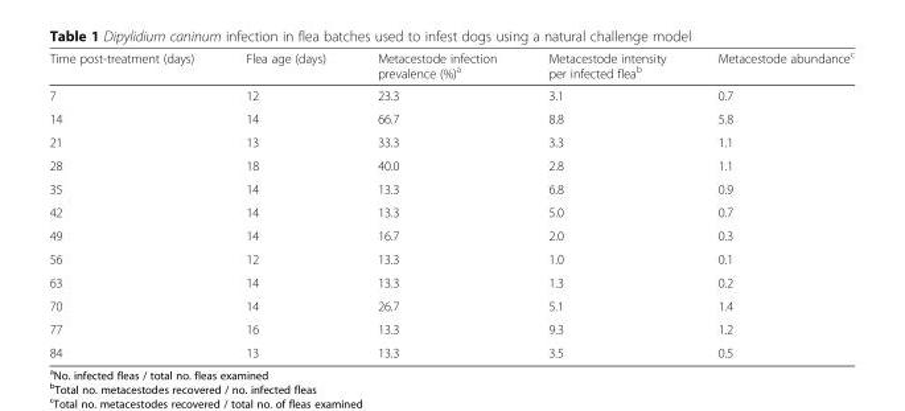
<table><thead><tr><td>Time post-treatment (days)</td><td>Flea age (days)</td><td>Metacestode infection prevalence (%)<sup>a</sup></td><td>Metacestode intensity per infected flea<sup>b</sup></td><td>Metacestode abundance<sup>c</sup></td></tr></thead><tbody><tr><td>7</td><td>12</td><td>23.3</td><td>3.1</td><td>0.7</td></tr><tr><td>14</td><td>14</td><td>66.7</td><td>8.8</td><td>5.8</td></tr><tr><td>21</td><td>13</td><td>33.3</td><td>3.3</td><td>1.1</td></tr><tr><td>28</td><td>18</td><td>40.0</td><td>2.8</td><td>1.1</td></tr><tr><td>35</td><td>14</td><td>13.3</td><td>6.8</td><td>0.9</td></tr><tr><td>42</td><td>14</td><td>13.3</td><td>5.0</td><td>0.7</td></tr><tr><td>49</td><td>14</td><td>16.7</td><td>2.0</td><td>0.3</td></tr><tr><td>56</td><td>12</td><td>13.3</td><td>1.0</td><td>0.1</td></tr><tr><td>63</td><td>14</td><td>13.3</td><td>1.3</td><td>0.2</td></tr><tr><td>70</td><td>14</td><td>26.7</td><td>5.1</td><td>1.4</td></tr><tr><td>77</td><td>16</td><td>13.3</td><td>9.3</td><td>1.2</td></tr><tr><td>84</td><td>13</td><td>13.3</td><td>3.5</td><td>0.5</td></tr></tbody></table>